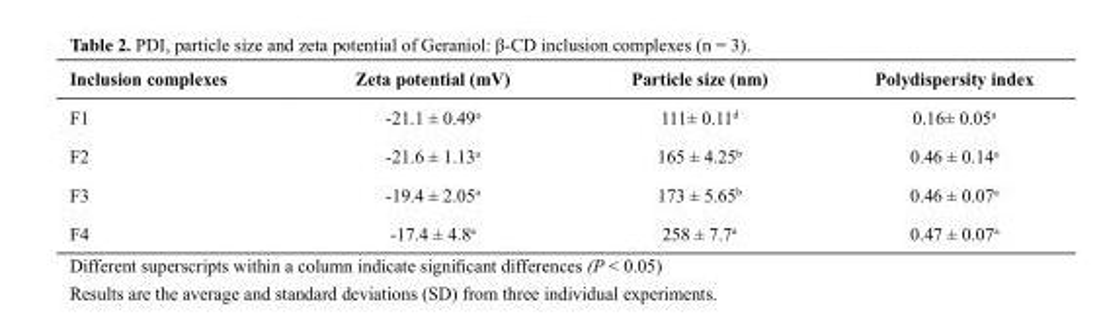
<table><thead><tr><td>Inclusion complexes</td><td>Zeta potential (mV)</td><td>Particle size (nm)</td><td>Polydispersity index</td></tr></thead><tbody><tr><td>F1</td><td>-21.1 ± 0.49<sup>a</sup></td><td>111± 0.11<sup>d</sup></td><td>0.16± 0.05<sup>a</sup></td></tr><tr><td>F2</td><td>-21.6 ± 1.13<sup>a</sup></td><td>165 ± 4.25<sup>b</sup></td><td>0.46 ± 0.14<sup>a</sup></td></tr><tr><td>F3</td><td>-19.4 ± 2.05<sup>a</sup></td><td>173 ± 5.65<sup>b</sup></td><td>0.46 ± 0.07<sup>a</sup></td></tr><tr><td>F4</td><td>-17.4 ± 4.8<sup>a</sup></td><td>258 ± 7.7<sup>a</sup></td><td>0.47 ± 0.07<sup>a</sup></td></tr></tbody></table>